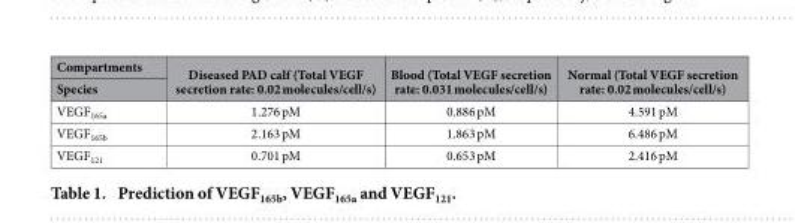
<table><thead><tr><td rowspan="2">Compartments Species</td><td rowspan="2">Diseased PAD calf (Total VEGF secretion rate: 0.02 molecules/cell/s)</td><td rowspan="2">Blood (Total VEGF secretion rate: 0.031 molecules/cell/s)</td><td rowspan="2">Normal (Total VEGF secretion rate: 0.02 molecules/cell/s)</td></tr><tr></tr></thead><tbody><tr><td>VEGF<sub>165a</sub></td><td>1.276 pM</td><td>0.886 pM</td><td>4.591 pM</td></tr><tr><td>VEGF<sub>165b</sub></td><td>2.163 pM</td><td>1.863 pM</td><td>6.486 pM</td></tr><tr><td>VEGF<sub>121</sub></td><td>0.701 pM</td><td>0.653 pM</td><td>2.416 pM</td></tr></tbody></table>